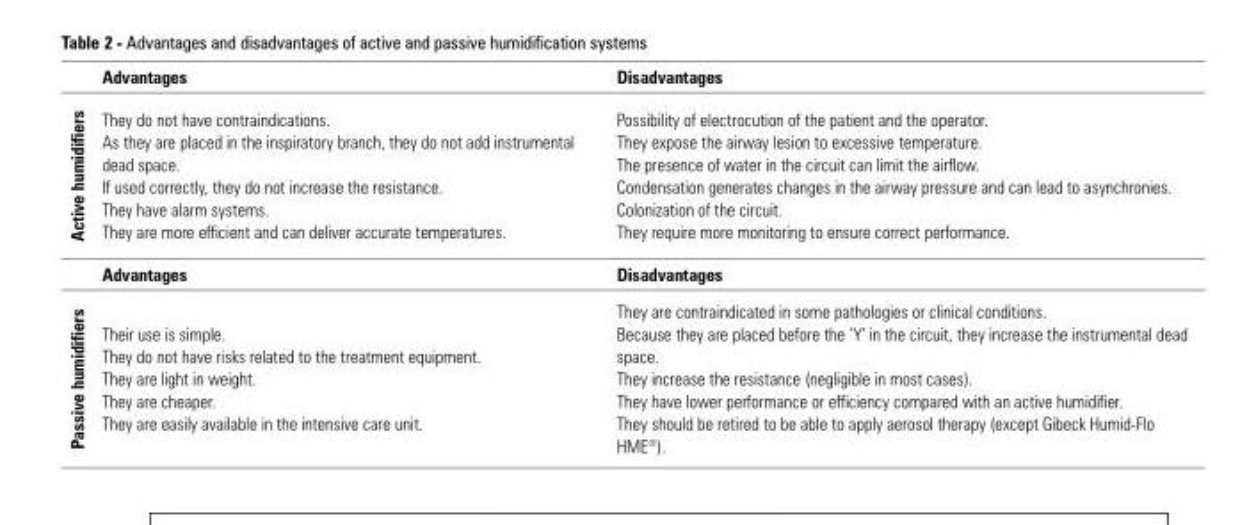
<table><thead><tr><td></td><td>Advantages</td><td>Disadvantages</td></tr></thead><tbody><tr><td rowspan="2">Active humidifiers</td><td>They do not have contraindications. As they are placed in the inspiratory branch, they do not add instrumental dead space. If used correctly, they do not increase the resistance. They have alarm systems. They are more efficient and can deliver accurate temperatures.</td><td>Possibility of electrocution of the patient and the operator. They expose the airway lesion to excessive temperature. The presence of water in the circuit can limit the airflow. Condensation generates changes in the airway pressure and can lead to asynchronies. Colonization of the circuit. They require more monitoring to ensure correct performance.</td></tr><tr><td>Advantages</td><td>Disadvantages</td></tr><tr><td>Passive humidifiers</td><td>Their use is simple. They do not have risks related to the treatment equipment. They are light in weight. They are cheaper. They are easily available in the intensive care unit.</td><td>They are contraindicated in some pathologies or clinical conditions. Because they are placed before the ‘Y’ in the circuit, they increase the instrumental dead space. They increase the resistance (negligible in most cases). They have lower performance or efficiency compared with an active humidifier. They should be retired to be able to apply aerosol therapy (except Gibeck Humid-Flo HME<sup>®</sup>).</td></tr></tbody></table>